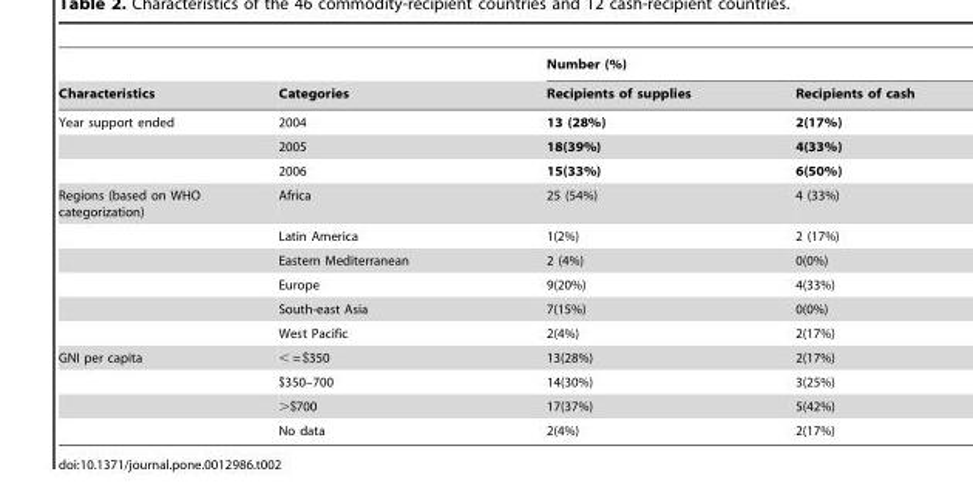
<table><thead><tr><td rowspan="2">Characteristics</td><td rowspan="2">Categories</td><td colspan="2">Number (%)</td></tr><tr><td>Recipients of supplies</td><td>Recipients of cash</td></tr></thead><tbody><tr><td rowspan="3">Year support ended</td><td>2004</td><td>13 (28%)</td><td>2(17%)</td></tr><tr><td>2005</td><td>18(39%)</td><td>4(33%)</td></tr><tr><td>2006</td><td>15(33%)</td><td>6(50%)</td></tr><tr><td rowspan="6">Regions (based on WHO categorization)</td><td>Africa</td><td>25 (54%)</td><td>4 (33%)</td></tr><tr><td>Latin America</td><td>1(2%)</td><td>2 (17%)</td></tr><tr><td>Eastern Mediterranean</td><td>2 (4%)</td><td>0(0%)</td></tr><tr><td>Europe</td><td>9(20%)</td><td>4(33%)</td></tr><tr><td>South-east Asia</td><td>7(15%)</td><td>0(0%)</td></tr><tr><td>West Pacific</td><td>2(4%)</td><td>2(17%)</td></tr><tr><td rowspan="4">GNI per capita</td><td>&lt; = $350</td><td>13(28%)</td><td>2(17%)</td></tr><tr><td>$350–700</td><td>14(30%)</td><td>3(25%)</td></tr><tr><td>&gt;$700</td><td>17(37%)</td><td>5(42%)</td></tr><tr><td>No data</td><td>2(4%)</td><td>2(17%)</td></tr></tbody></table>